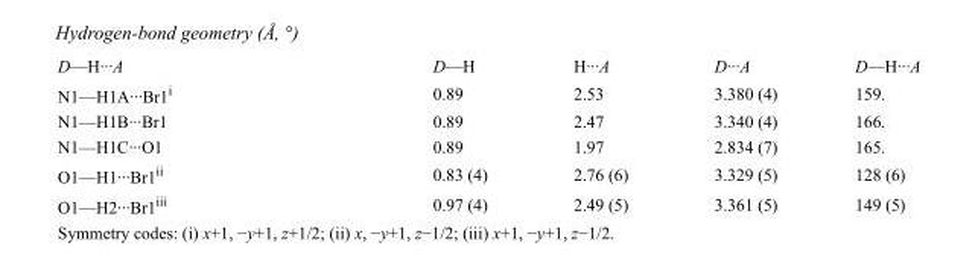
<table><tbody><tr><td>D—H···A</td><td>D—H</td><td>H···A</td><td>D···A</td><td>D—H···A</td></tr><tr><td>N1—H1A···Br1<sup>i</sup></td><td>0.89</td><td>2.53</td><td>3.380 (4)</td><td>159.</td></tr><tr><td>N1—H1B···Br1</td><td>0.89</td><td>2.47</td><td>3.340 (4)</td><td>166.</td></tr><tr><td>N1—H1C···O1</td><td>0.89</td><td>1.97</td><td>2.834 (7)</td><td>165.</td></tr><tr><td>O1—H1···Br1<sup>ii</sup></td><td>0.83 (4)</td><td>2.76 (6)</td><td>3.329 (5)</td><td>128 (6)</td></tr><tr><td>O1—H2···Br1<sup>iii</sup></td><td>0.97 (4)</td><td>2.49 (5)</td><td>3.361 (5)</td><td>149 (5)</td></tr></tbody></table>